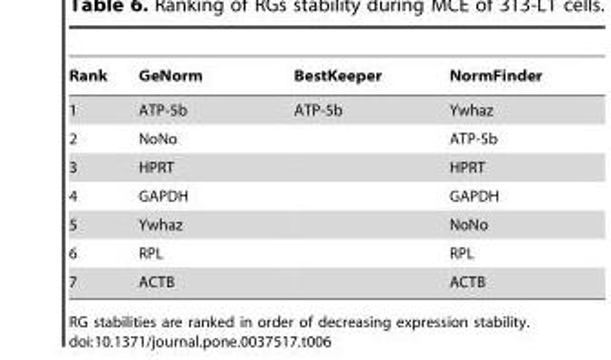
<table><thead><tr><td>Rank</td><td>GeNorm</td><td>BestKeeper</td><td>NormFinder</td></tr></thead><tbody><tr><td>1</td><td>ATP-5b</td><td>ATP-5b</td><td>Ywhaz</td></tr><tr><td>2</td><td>NoNo</td><td></td><td>ATP-5b</td></tr><tr><td>3</td><td>HPRT</td><td></td><td>HPRT</td></tr><tr><td>4</td><td>GAPDH</td><td></td><td>GAPDH</td></tr><tr><td>5</td><td>Ywhaz</td><td></td><td>NoNo</td></tr><tr><td>6</td><td>RPL</td><td></td><td>RPL</td></tr><tr><td>7</td><td>ACTB</td><td></td><td>ACTB</td></tr></tbody></table>